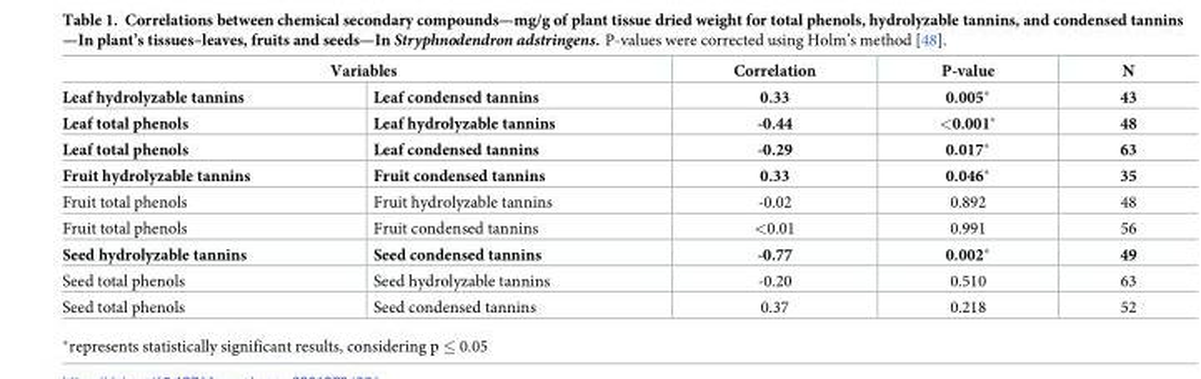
<table><thead><tr><td colspan="2">Variables</td><td rowspan="2">Correlation 0.33</td><td rowspan="2">P-value 0.005*</td><td rowspan="2">N 43</td></tr><tr><td>Leaf hydrolyzable tannins</td><td>Leaf condensed tannins</td></tr></thead><tbody><tr><td>Leaf total phenols</td><td>Leaf hydrolyzable tannins</td><td>-0.44</td><td>&lt;0.001*</td><td>48</td></tr><tr><td>Leaf total phenols</td><td>Leaf condensed tannins</td><td>-0.29</td><td>0.017*</td><td>63</td></tr><tr><td>Fruit hydrolyzable tannins</td><td>Fruit condensed tannins</td><td>0.33</td><td>0.046*</td><td>35</td></tr><tr><td>Fruit total phenols</td><td>Fruit hydrolyzable tannins</td><td>-0.02</td><td>0.892</td><td>48</td></tr><tr><td>Fruit total phenols</td><td>Fruit condensed tannins</td><td>&lt;0.01</td><td>0.991</td><td>56</td></tr><tr><td>Seed hydrolyzable tannins</td><td>Seed condensed tannins</td><td>-0.77</td><td>0.002*</td><td>49</td></tr><tr><td>Seed total phenols</td><td>Seed hydrolyzable tannins</td><td>-0.20</td><td>0.510</td><td>63</td></tr><tr><td>Seed total phenols</td><td>Seed condensed tannins</td><td>0.37</td><td>0.218</td><td>52</td></tr></tbody></table>